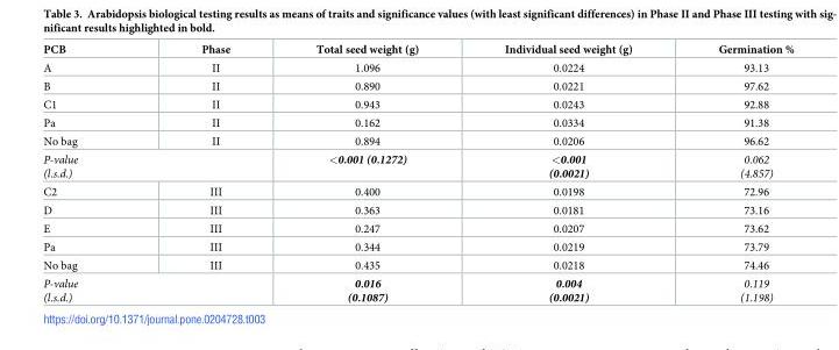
<table><thead><tr><td>PCB</td><td>Phase</td><td>Total seed weight (g)</td><td>Individual seed weight (g)</td><td>Germination %</td></tr></thead><tbody><tr><td>A</td><td>II</td><td>1.096</td><td>0.0224</td><td>93.13</td></tr><tr><td>B</td><td>II</td><td>0.890</td><td>0.0221</td><td>97.62</td></tr><tr><td>C1</td><td>II</td><td>0.943</td><td>0.0243</td><td>92.88</td></tr><tr><td>Pa</td><td>II</td><td>0.162</td><td>0.0334</td><td>91.38</td></tr><tr><td>No bag</td><td>II</td><td>0.894</td><td>0.0206</td><td>96.62</td></tr><tr><td colspan="2">P-value (l.s.d.)</td><td>&lt;0.001 (0.1272)</td><td>&lt;0.001 (0.0021)</td><td>0.062 (4.857)</td></tr><tr><td>C2</td><td>III</td><td>0.400</td><td>0.0198</td><td>72.96</td></tr><tr><td>D</td><td>III</td><td>0.363</td><td>0.0181</td><td>73.16</td></tr><tr><td>E</td><td>III</td><td>0.247</td><td>0.0207</td><td>73.62</td></tr><tr><td>Pa</td><td>III</td><td>0.344</td><td>0.0219</td><td>73.79</td></tr><tr><td>No bag</td><td>III</td><td>0.435</td><td>0.0218</td><td>74.46</td></tr><tr><td colspan="2">P-value (l.s.d.)</td><td>0.016 (0.1087)</td><td>0.004 (0.0021)</td><td>0.119 (1.198)</td></tr></tbody></table>